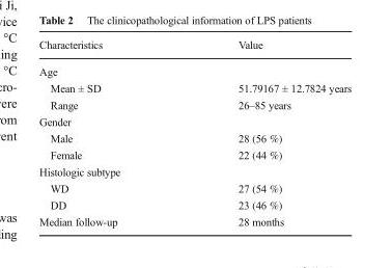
<table><thead><tr><td>Characteristics</td><td>Value</td></tr></thead><tbody><tr><td colspan="2">Age</td></tr><tr><td>Mean ± SD</td><td>51.79167 ± 12.7824 years</td></tr><tr><td>Range</td><td>26–85 years</td></tr><tr><td colspan="2">Gender</td></tr><tr><td>Male</td><td>28 (56 %)</td></tr><tr><td>Female</td><td>22 (44 %)</td></tr><tr><td colspan="2">Histologic subtype</td></tr><tr><td>WD</td><td>27 (54 %)</td></tr><tr><td>DD</td><td>23 (46 %)</td></tr><tr><td>Median follow-up</td><td>28 months</td></tr></tbody></table>